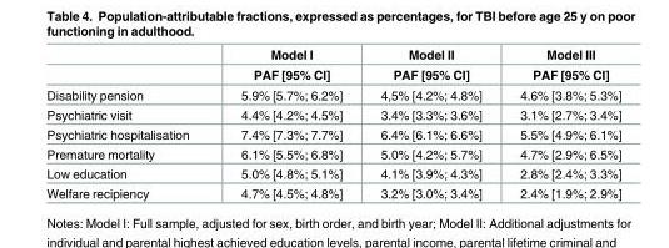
<table><thead><tr><td rowspan="2"></td><td rowspan="2">Model I PAF [95% CI]</td><td rowspan="2">Model II PAF [95% CI]</td><td rowspan="2">Model III PAF [95% CI]</td></tr><tr></tr></thead><tbody><tr><td>Disability pension</td><td>5.9% [5.7%; 6.2%]</td><td>4,5% [4.2%; 4.8%]</td><td>4.6% [3.8%; 5.3%]</td></tr><tr><td>Psychiatric visit</td><td>4.4% [4.2%; 4.5%]</td><td>3.4% [3.3%; 3.6%]</td><td>3.1% [2.7%; 3.4%]</td></tr><tr><td>Psychiatric hospitalisation</td><td>7.4% [7.3%; 7.7%]</td><td>6.4% [6.1%; 6.6%]</td><td>5.5% [4.9%; 6.1%]</td></tr><tr><td>Premature mortality</td><td>6.1% [5.5%; 6.8%]</td><td>5.0% [4.2%; 5.7%]</td><td>4.7% [2.9%; 6.5%]</td></tr><tr><td>Low education</td><td>5.0% [4.8%; 5.1%]</td><td>4.1% [3.9%; 4.3%]</td><td>2.8% [2.4%; 3.3%]</td></tr><tr><td>Welfare recipiency</td><td>4.7% [4.5%; 4.8%]</td><td>3.2% [3.0%; 3.4%]</td><td>2.4% [1.9%; 2.9%]</td></tr></tbody></table>